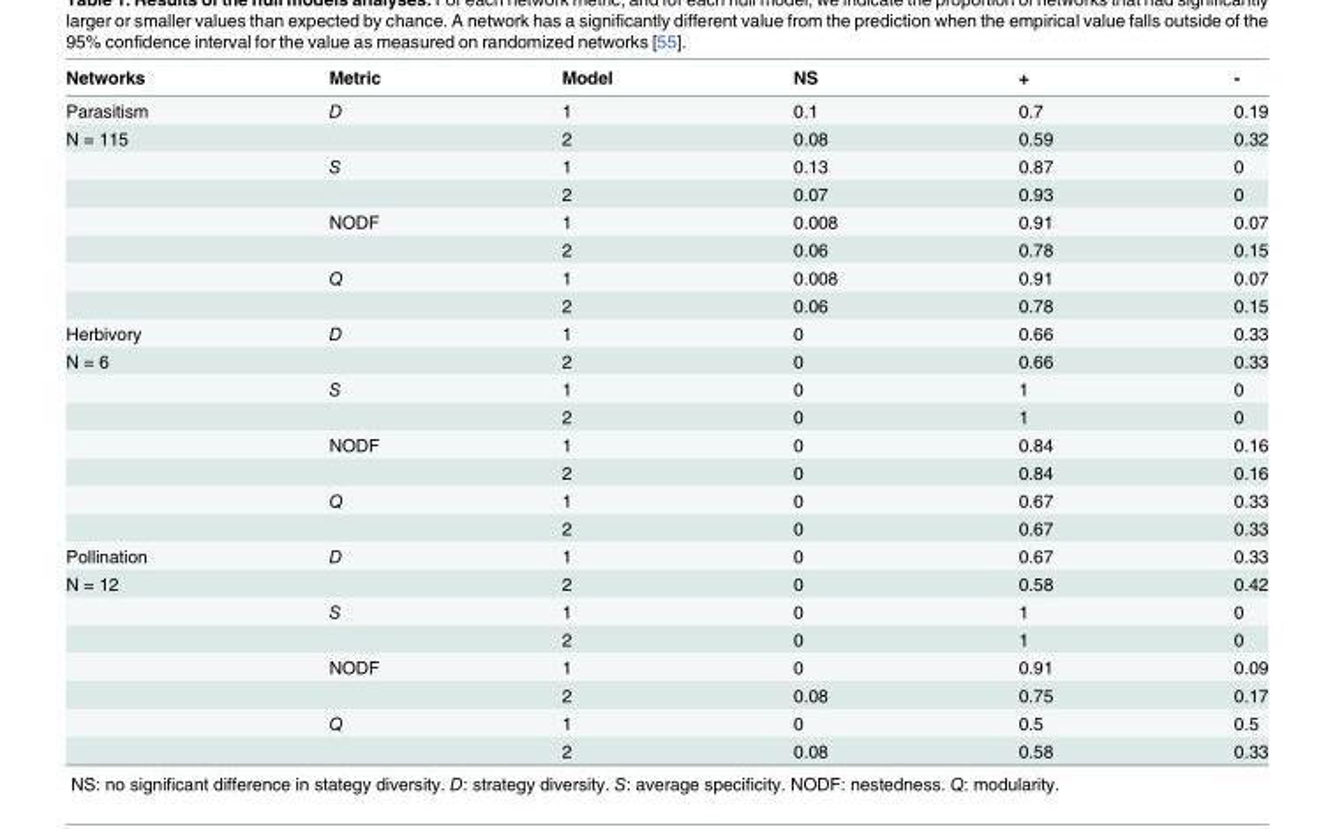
<table><thead><tr><td>Networks</td><td>Metric</td><td>Model</td><td>NS</td><td>+</td><td>-</td></tr></thead><tbody><tr><td>Parasitism</td><td>D</td><td>1</td><td>0.1</td><td>0.7</td><td>0.19</td></tr><tr><td rowspan="7">N = 115</td><td></td><td>2</td><td>0.08</td><td>0.59</td><td>0.32</td></tr><tr><td>S</td><td>1</td><td>0.13</td><td>0.87</td><td>0</td></tr><tr><td></td><td>2</td><td>0.07</td><td>0.93</td><td>0</td></tr><tr><td>NODF</td><td>1</td><td>0.008</td><td>0.91</td><td>0.07</td></tr><tr><td></td><td>2</td><td>0.06</td><td>0.78</td><td>0.15</td></tr><tr><td>Q</td><td>1</td><td>0.008</td><td>0.91</td><td>0.07</td></tr><tr><td></td><td>2</td><td>0.06</td><td>0.78</td><td>0.15</td></tr><tr><td>Herbivory</td><td>D</td><td>1</td><td>0</td><td>0.66</td><td>0.33</td></tr><tr><td rowspan="7">N = 6</td><td></td><td>2</td><td>0</td><td>0.66</td><td>0.33</td></tr><tr><td>S</td><td>1</td><td>0</td><td>1</td><td>0</td></tr><tr><td></td><td>2</td><td>0</td><td>1</td><td>0</td></tr><tr><td>NODF</td><td>1</td><td>0</td><td>0.84</td><td>0.16</td></tr><tr><td></td><td>2</td><td>0</td><td>0.84</td><td>0.16</td></tr><tr><td>Q</td><td>1</td><td>0</td><td>0.67</td><td>0.33</td></tr><tr><td></td><td>2</td><td>0</td><td>0.67</td><td>0.33</td></tr><tr><td>Pollination</td><td>D</td><td>1</td><td>0</td><td>0.67</td><td>0.33</td></tr><tr><td rowspan="7">N = 12</td><td></td><td>2</td><td>0</td><td>0.58</td><td>0.42</td></tr><tr><td>S</td><td>1</td><td>0</td><td>1</td><td>0</td></tr><tr><td></td><td>2</td><td>0</td><td>1</td><td>0</td></tr><tr><td>NODF</td><td>1</td><td>0</td><td>0.91</td><td>0.09</td></tr><tr><td></td><td>2</td><td>0.08</td><td>0.75</td><td>0.17</td></tr><tr><td>Q</td><td>1</td><td>0</td><td>0.5</td><td>0.5</td></tr><tr><td></td><td>2</td><td>0.08</td><td>0.58</td><td>0.33</td></tr></tbody></table>